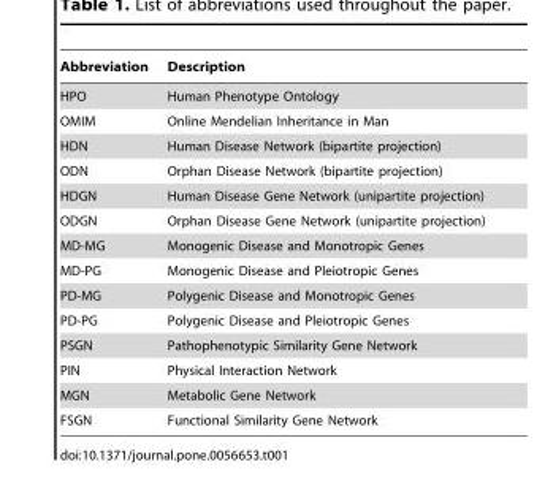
<table><thead><tr><td>Abbreviation</td><td>Description</td></tr></thead><tbody><tr><td>HPO</td><td>Human Phenotype Ontology</td></tr><tr><td>OMIM</td><td>Online Mendelian Inheritance in Man</td></tr><tr><td>HDN</td><td>Human Disease Network (bipartite projection)</td></tr><tr><td>ODN</td><td>Orphan Disease Network (bipartite projection)</td></tr><tr><td>HDGN</td><td>Human Disease Gene Network (unipartite projection)</td></tr><tr><td>ODGN</td><td>Orphan Disease Gene Network (unipartite projection)</td></tr><tr><td>MD-MG</td><td>Monogenic Disease and Monotropic Genes</td></tr><tr><td>MD-PG</td><td>Monogenic Disease and Pleiotropic Genes</td></tr><tr><td>PD-MG</td><td>Polygenic Disease and Monotropic Genes</td></tr><tr><td>PD-PG</td><td>Polygenic Disease and Pleiotropic Genes</td></tr><tr><td>PSGN</td><td>Pathophenotypic Similarity Gene Network</td></tr><tr><td>PIN</td><td>Physical Interaction Network</td></tr><tr><td>MGN</td><td>Metabolic Gene Network</td></tr><tr><td>FSGN</td><td>Functional Similarity Gene Network</td></tr></tbody></table>